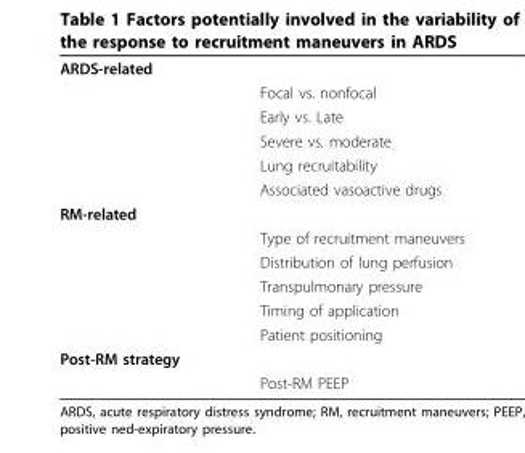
<table><tbody><tr><td colspan="2">ARDS-related</td></tr><tr><td></td><td>Focal vs. nonfocal</td></tr><tr><td></td><td>Early vs. Late</td></tr><tr><td></td><td>Severe vs. moderate</td></tr><tr><td></td><td>Lung recruitability</td></tr><tr><td></td><td>Associated vasoactive drugs</td></tr><tr><td colspan="2">RM-related</td></tr><tr><td></td><td>Type of recruitment maneuvers</td></tr><tr><td></td><td>Distribution of lung perfusion</td></tr><tr><td></td><td>Transpulmonary pressure</td></tr><tr><td></td><td>Timing of application</td></tr><tr><td></td><td>Patient positioning</td></tr><tr><td colspan="2">Post-RM strategy</td></tr><tr><td></td><td>Post-RM PEEP</td></tr></tbody></table>